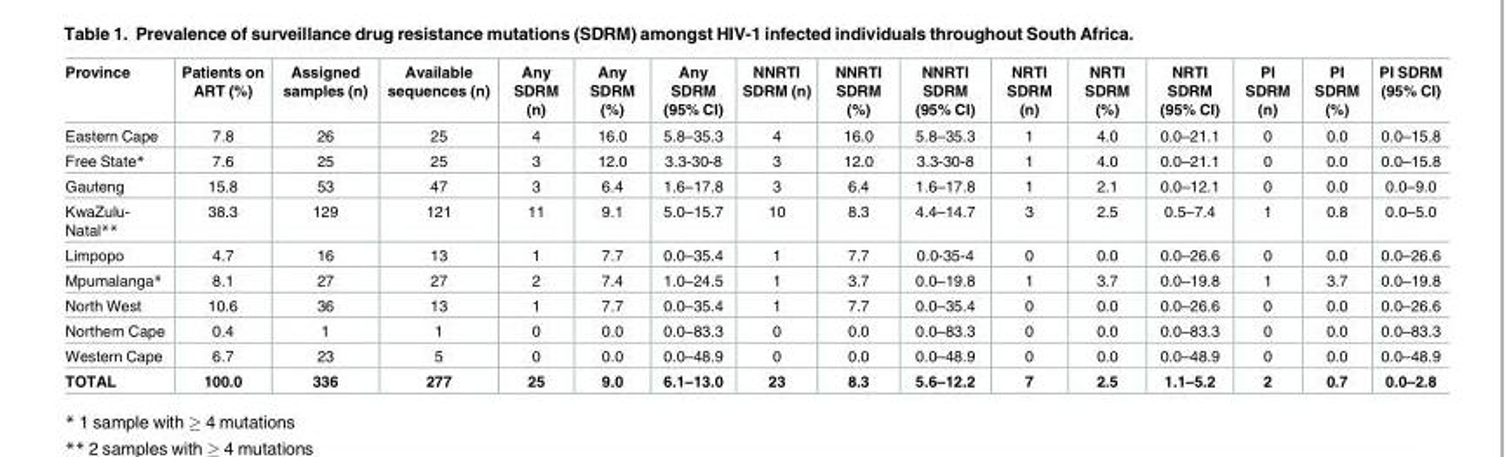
<table><thead><tr><td>Province</td><td>Patients on ART (%)</td><td>Assigned samples (n)</td><td>Available sequences (n)</td><td>Any SDRM (n)</td><td>Any SDRM (%)</td><td>Any SDRM (95% CI)</td><td>NNRTI SDRM (n)</td><td>NNRTI SDRM (%)</td><td>NNRTI SDRM (95% CI)</td><td>NRTI SDRM (n)</td><td>NRTI SDRM (%)</td><td>NRTI SDRM (95% CI)</td><td>PI SDRM (n)</td><td>PI SDRM (%)</td><td>PI SDRM (95% CI)</td></tr></thead><tbody><tr><td>Eastern Cape</td><td>7.8</td><td>26</td><td>25</td><td>4</td><td>16.0</td><td>5.8–35.3</td><td>4</td><td>16.0</td><td>5.8–35.3</td><td>1</td><td>4.0</td><td>0.0–21.1</td><td>0</td><td>0.0</td><td>0.0–15.8</td></tr><tr><td>Free State*</td><td>7.6</td><td>25</td><td>25</td><td>3</td><td>12.0</td><td>3.3-30-8</td><td>3</td><td>12.0</td><td>3.3-30-8</td><td>1</td><td>4.0</td><td>0.0–21.1</td><td>0</td><td>0.0</td><td>0.0–15.8</td></tr><tr><td>Gauteng</td><td>15.8</td><td>53</td><td>47</td><td>3</td><td>6.4</td><td>1.6–17.8</td><td>3</td><td>6.4</td><td>1.6–17.8</td><td>1</td><td>2.1</td><td>0.0–12.1</td><td>0</td><td>0.0</td><td>0.0–9.0</td></tr><tr><td>KwaZulu- Natal**</td><td>38.3</td><td>129</td><td>121</td><td>11</td><td>9.1</td><td>5.0–15.7</td><td>10</td><td>8.3</td><td>4.4–14.7</td><td>3</td><td>2.5</td><td>0.5–7.4</td><td>1</td><td>0.8</td><td>0.0–5.0</td></tr><tr><td>Limpopo</td><td>4.7</td><td>16</td><td>13</td><td>1</td><td>7.7</td><td>0.0–35.4</td><td>1</td><td>7.7</td><td>0.0-35-4</td><td>0</td><td>0.0</td><td>0.0–26.6</td><td>0</td><td>0.0</td><td>0.0–26.6</td></tr><tr><td>Mpumalanga*</td><td>8.1</td><td>27</td><td>27</td><td>2</td><td>7.4</td><td>1.0–24.5</td><td>1</td><td>3.7</td><td>0.0–19.8</td><td>1</td><td>3.7</td><td>0.0–19.8</td><td>1</td><td>3.7</td><td>0.0–19.8</td></tr><tr><td>North West</td><td>10.6</td><td>36</td><td>13</td><td>1</td><td>7.7</td><td>0.0–35.4</td><td>1</td><td>7.7</td><td>0.0–35.4</td><td>0</td><td>0.0</td><td>0.0–26.6</td><td>0</td><td>0.0</td><td>0.0–26.6</td></tr><tr><td>Northern Cape</td><td>0.4</td><td>1</td><td>1</td><td>0</td><td>0.0</td><td>0.0–83.3</td><td>0</td><td>0.0</td><td>0.0–83.3</td><td>0</td><td>0.0</td><td>0.0–83.3</td><td>0</td><td>0.0</td><td>0.0–83.3</td></tr><tr><td>Western Cape</td><td>6.7</td><td>23</td><td>5</td><td>0</td><td>0.0</td><td>0.0–48.9</td><td>0</td><td>0.0</td><td>0.0–48.9</td><td>0</td><td>0.0</td><td>0.0–48.9</td><td>0</td><td>0.0</td><td>0.0–48.9</td></tr><tr><td>TOTAL</td><td>100.0</td><td>336</td><td>277</td><td>25</td><td>9.0</td><td>6.1–13.0</td><td>23</td><td>8.3</td><td>5.6–12.2</td><td>7</td><td>2.5</td><td>1.1–5.2</td><td>2</td><td>0.7</td><td>0.0–2.8</td></tr></tbody></table>